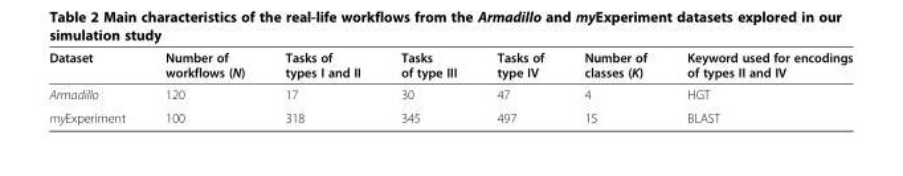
<table><thead><tr><td>Dataset</td><td>Number of workflows (N)</td><td>Tasks of types I and II</td><td>Tasks of type III</td><td>Tasks of type IV</td><td>Number of classes (K)</td><td>Keyword used for encodings of types II and IV</td></tr></thead><tbody><tr><td>Armadillo</td><td>120</td><td>17</td><td>30</td><td>47</td><td>4</td><td>HGT</td></tr><tr><td>myExperiment</td><td>100</td><td>318</td><td>345</td><td>497</td><td>15</td><td>BLAST</td></tr></tbody></table>